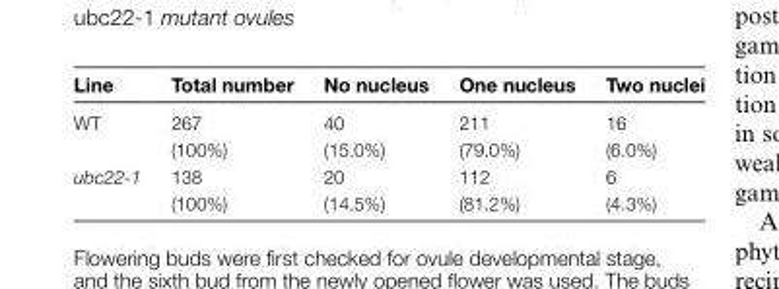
<table><thead><tr><td>Line</td><td>Total number</td><td>No nucleus</td><td>One nucleus</td><td>Two nuclei</td></tr></thead><tbody><tr><td>WT</td><td>267 (100%)</td><td>40 (15.0%)</td><td>211 (79.0%)</td><td>16 (6.0%)</td></tr><tr><td>ubc22-1</td><td>138 (100%)</td><td>20 (14.5%)</td><td>112 (81.2%)</td><td>6 (4.3%)</td></tr></tbody></table>